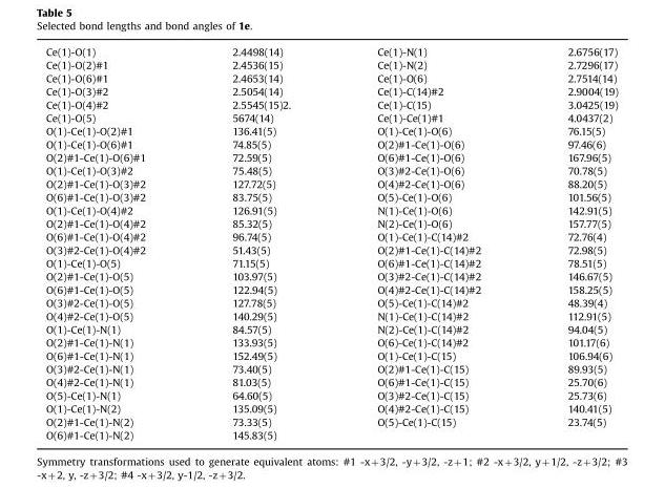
<table><tbody><tr><td>Ce(1)-O(1)</td><td>2.4498(14)</td><td>Ce(1)-N(1)</td><td>2.6756(17)</td></tr><tr><td>Ce(1)-O(2)#1</td><td>2.4536(15)</td><td>Ce(1)-N(2)</td><td>2.7296(17)</td></tr><tr><td>Ce(1)-O(6)#1</td><td>2.4653(14)</td><td>Ce(1)-O(6)</td><td>2.7514(14)</td></tr><tr><td>Ce(1)-O(3)#2</td><td>2.5054(14)</td><td>Ce(1)-C(14)#2</td><td>2.9004(19)</td></tr><tr><td>Ce(1)-O(4)#2</td><td>2.5545(15)2.</td><td>Ce(1)-C(15)</td><td>3.0425(19)</td></tr><tr><td>Ce(1)-O(5)</td><td>5674(14)</td><td>Ce(1)-Ce(1)#1</td><td>4.0437(2)</td></tr><tr><td>O(1)-Ce(1)-O(2)#1</td><td>136.41(5)</td><td>O(1)-Ce(1)-O(6)</td><td>76.15(5)</td></tr><tr><td>O(1)-Ce(1)-O(6)#1</td><td>74.85(5)</td><td>O(2)#1-Ce(1)-O(6)</td><td>97.46(6)</td></tr><tr><td>O(2)#1-Ce(1)-O(6)#1</td><td>72.59(5)</td><td>O(6)#1-Ce(1)-O(6)</td><td>167.96(5)</td></tr><tr><td>O(1)-Ce(1)-O(3)#2</td><td>75.48(5)</td><td>O(3)#2-Ce(1)-O(6)</td><td>70.78(5)</td></tr><tr><td>O(2)#1-Ce(1)-O(3)#2</td><td>127.72(5)</td><td>O(4)#2-Ce(1)-O(6)</td><td>88.20(5)</td></tr><tr><td>O(6)#1-Ce(1)-O(3)#2</td><td>83.75(5)</td><td>O(5)-Ce(1)-O(6)</td><td>101.56(5)</td></tr><tr><td>O(1)-Ce(1)-O(4)#2</td><td>126.91(5)</td><td>N(1)-Ce(1)-O(6)</td><td>142.91(5)</td></tr><tr><td>O(2)#1-Ce(1)-O(4)#2</td><td>85.32(5)</td><td>N(2)-Ce(1)-O(6)</td><td>157.77(5)</td></tr><tr><td>O(6)#1-Ce(1)-O(4)#2</td><td>96.74(5)</td><td>O(1)-Ce(1)-C(14)#2</td><td>72.76(4)</td></tr><tr><td>O(3)#2-Ce(1)-O(4)#2</td><td>51.43(5)</td><td>O(2)#1-Ce(1)-C(14)#2</td><td>72.98(5)</td></tr><tr><td>O(1)-Ce(1)-O(5)</td><td>71.15(5)</td><td>O(6)#1-Ce(1)-C(14)#2</td><td>78.51(5)</td></tr><tr><td>O(2)#1-Ce(1)-O(5)</td><td>103.97(5)</td><td>O(3)#2-Ce(1)-C(14)#2</td><td>146.67(5)</td></tr><tr><td>O(6)#1-Ce(1)-O(5)</td><td>122.94(5)</td><td>O(4)#2-Ce(1)-C(14)#2</td><td>158.25(5)</td></tr><tr><td>O(3)#2-Ce(1)-O(5)</td><td>127.78(5)</td><td>O(5)-Ce(1)-C(14)#2</td><td>48.39(4)</td></tr><tr><td>O(4)#2-Ce(1)-O(5)</td><td>140.29(5)</td><td>N(1)-Ce(1)-C(14)#2</td><td>112.91(5)</td></tr><tr><td>O(1)-Ce(1)-N(1)</td><td>84.57(5)</td><td>N(2)-Ce(1)-C(14)#2</td><td>94.04(5)</td></tr><tr><td>O(2)#1-Ce(1)-N(1)</td><td>133.93(5)</td><td>O(6)-Ce(1)-C(14)#2</td><td>101.17(6)</td></tr><tr><td>O(6)#1-Ce(1)-N(1)</td><td>152.49(5)</td><td>O(1)-Ce(1)-C(15)</td><td>106.94(6)</td></tr><tr><td>O(3)#2-Ce(1)-N(1)</td><td>73.40(5)</td><td>O(2)#1-Ce(1)-C(15)</td><td>89.93(5)</td></tr><tr><td>O(4)#2-Ce(1)-N(1)</td><td>81.03(5)</td><td>O(6)#1-Ce(1)-C(15)</td><td>25.70(6)</td></tr><tr><td>O(5)-Ce(1)-N(1)</td><td>64.60(5)</td><td>O(3)#2-Ce(1)-C(15)</td><td>25.73(6)</td></tr><tr><td>O(1)-Ce(1)-N(2)</td><td>135.09(5)</td><td>O(4)#2-Ce(1)-C(15)</td><td>140.41(5)</td></tr><tr><td>O(2)#1-Ce(1)-N(2)</td><td>73.33(5)</td><td>O(5)-Ce(1)-C(15)</td><td>23.74(5)</td></tr><tr><td>O(6)#1-Ce(1)-N(2)</td><td>145.83(5)</td><td></td><td></td></tr></tbody></table>